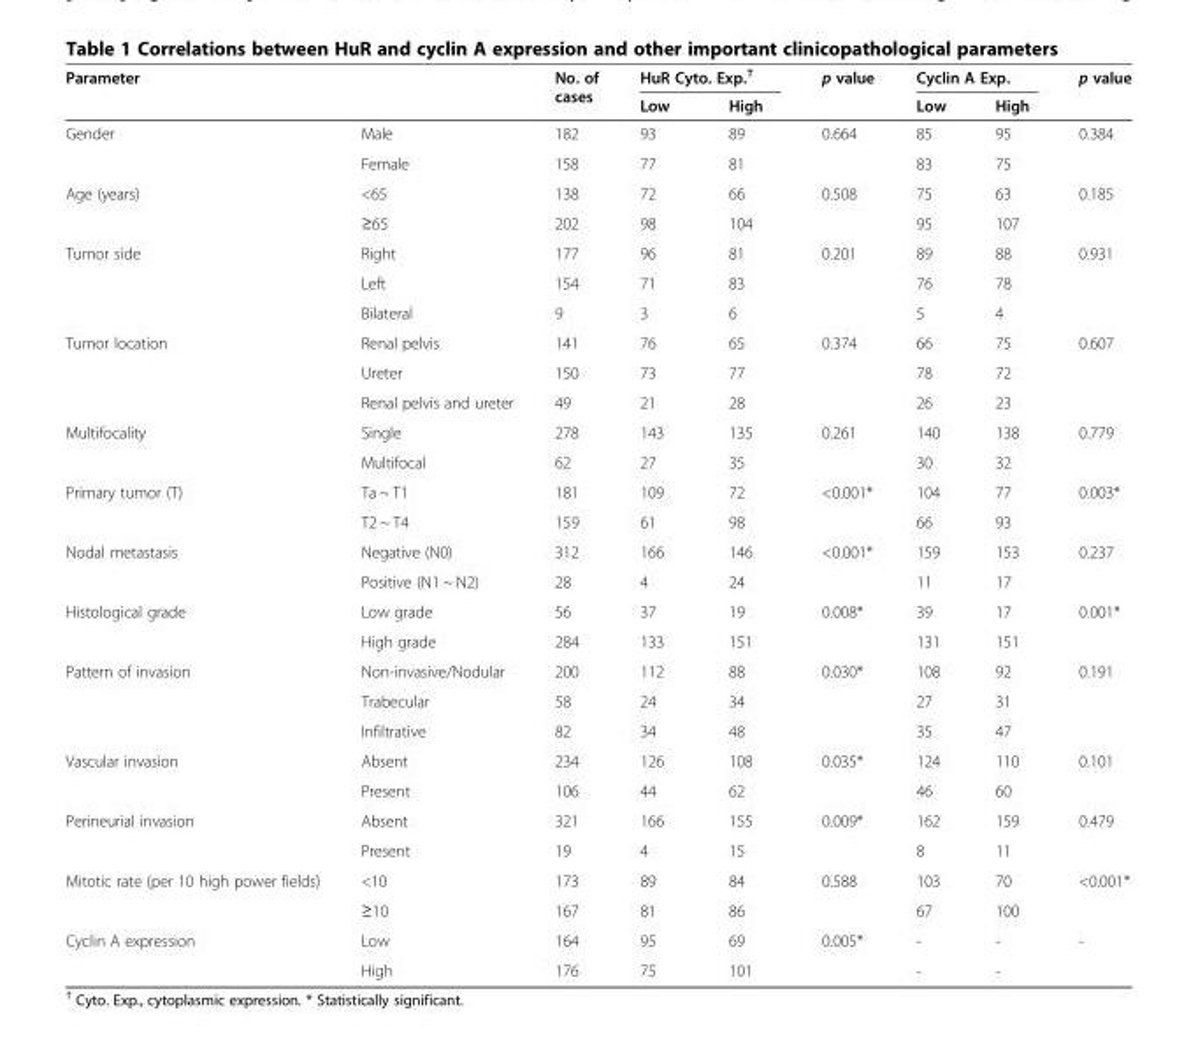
<table><thead><tr><td rowspan="2">Parameter</td><td rowspan="2"></td><td rowspan="2">No. of cases</td><td colspan="2">HuR Cyto. Exp.<sup>†</sup></td><td rowspan="2">p value</td><td colspan="2">Cyclin A Exp.</td><td rowspan="2">p value</td></tr><tr><td>Low</td><td>High</td><td>Low</td><td>High</td></tr></thead><tbody><tr><td rowspan="2">Gender</td><td>Male</td><td>182</td><td>93</td><td>89</td><td>0.664</td><td>85</td><td>95</td><td>0.384</td></tr><tr><td>Female</td><td>158</td><td>77</td><td>81</td><td></td><td>83</td><td>75</td><td></td></tr><tr><td rowspan="2">Age (years)</td><td>&lt;65</td><td>138</td><td>72</td><td>66</td><td>0.508</td><td>75</td><td>63</td><td>0.185</td></tr><tr><td>≥65</td><td>202</td><td>98</td><td>104</td><td></td><td>95</td><td>107</td><td></td></tr><tr><td rowspan="3">Tumor side</td><td>Right</td><td>177</td><td>96</td><td>81</td><td>0.201</td><td>89</td><td>88</td><td>0.931</td></tr><tr><td>Left</td><td>154</td><td>71</td><td>83</td><td></td><td>76</td><td>78</td><td></td></tr><tr><td>Bilateral</td><td>9</td><td>3</td><td>6</td><td></td><td>5</td><td>4</td><td></td></tr><tr><td rowspan="3">Tumor location</td><td>Renal pelvis</td><td>141</td><td>76</td><td>65</td><td>0.374</td><td>66</td><td>75</td><td>0.607</td></tr><tr><td>Ureter</td><td>150</td><td>73</td><td>77</td><td></td><td>78</td><td>72</td><td></td></tr><tr><td>Renal pelvis and ureter</td><td>49</td><td>21</td><td>28</td><td></td><td>26</td><td>23</td><td></td></tr><tr><td rowspan="2">Multifocality</td><td>Single</td><td>278</td><td>143</td><td>135</td><td>0.261</td><td>140</td><td>138</td><td>0.779</td></tr><tr><td>Multifocal</td><td>62</td><td>27</td><td>35</td><td></td><td>30</td><td>32</td><td></td></tr><tr><td rowspan="2">Primary tumor (T)</td><td>Ta ~ T1</td><td>181</td><td>109</td><td>72</td><td>&lt;0.001*</td><td>104</td><td>77</td><td>0.003*</td></tr><tr><td>T2 ~ T4</td><td>159</td><td>61</td><td>98</td><td></td><td>66</td><td>93</td><td></td></tr><tr><td rowspan="2">Nodal metastasis</td><td>Negative (N0)</td><td>312</td><td>166</td><td>146</td><td>&lt;0.001*</td><td>159</td><td>153</td><td>0.237</td></tr><tr><td>Positive (N1 ~ N2)</td><td>28</td><td>4</td><td>24</td><td></td><td>11</td><td>17</td><td></td></tr><tr><td rowspan="2">Histological grade</td><td>Low grade</td><td>56</td><td>37</td><td>19</td><td>0.008*</td><td>39</td><td>17</td><td>0.001*</td></tr><tr><td>High grade</td><td>284</td><td>133</td><td>151</td><td></td><td>131</td><td>151</td><td></td></tr><tr><td rowspan="3">Pattern of invasion</td><td>Non-invasive/Nodular</td><td>200</td><td>112</td><td>88</td><td>0.030*</td><td>108</td><td>92</td><td>0.191</td></tr><tr><td>Trabecular</td><td>58</td><td>24</td><td>34</td><td></td><td>27</td><td>31</td><td></td></tr><tr><td>Infiltrative</td><td>82</td><td>34</td><td>48</td><td></td><td>35</td><td>47</td><td></td></tr><tr><td rowspan="2">Vascular invasion</td><td>Absent</td><td>234</td><td>126</td><td>108</td><td>0.035*</td><td>124</td><td>110</td><td>0.101</td></tr><tr><td>Present</td><td>106</td><td>44</td><td>62</td><td></td><td>46</td><td>60</td><td></td></tr><tr><td rowspan="2">Perineurial invasion</td><td>Absent</td><td>321</td><td>166</td><td>155</td><td>0.009*</td><td>162</td><td>159</td><td>0.479</td></tr><tr><td>Present</td><td>19</td><td>4</td><td>15</td><td></td><td>8</td><td>11</td><td></td></tr><tr><td rowspan="2">Mitotic rate (per 10 high power fields)</td><td>&lt;10</td><td>173</td><td>89</td><td>84</td><td>0.588</td><td>103</td><td>70</td><td>&lt;0.001*</td></tr><tr><td>≥10</td><td>167</td><td>81</td><td>86</td><td></td><td>67</td><td>100</td><td></td></tr><tr><td rowspan="2">Cyclin A expression</td><td>Low</td><td>164</td><td>95</td><td>69</td><td>0.005*</td><td>-</td><td>-</td><td>-</td></tr><tr><td>High</td><td>176</td><td>75</td><td>101</td><td></td><td>-</td><td>-</td><td></td></tr></tbody></table>